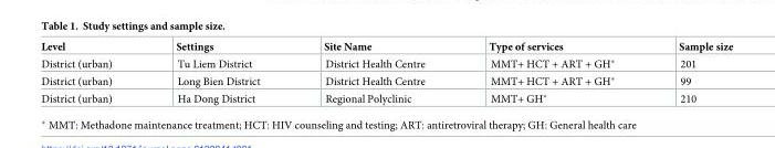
<table><thead><tr><td>Level</td><td>Settings</td><td>Site Name</td><td>Type of services</td><td>Sample size</td></tr></thead><tbody><tr><td>District (urban)</td><td>Tu Liem District</td><td>District Health Centre</td><td>MMT+ HCT + ART + GH*</td><td>201</td></tr><tr><td>District (urban)</td><td>Long Bien District</td><td>District Health Centre</td><td>MMT+ HCT + ART + GH*</td><td>99</td></tr><tr><td>District (urban)</td><td>Ha Dong District</td><td>Regional Polyclinic</td><td>MMT+ GH*</td><td>210</td></tr></tbody></table>